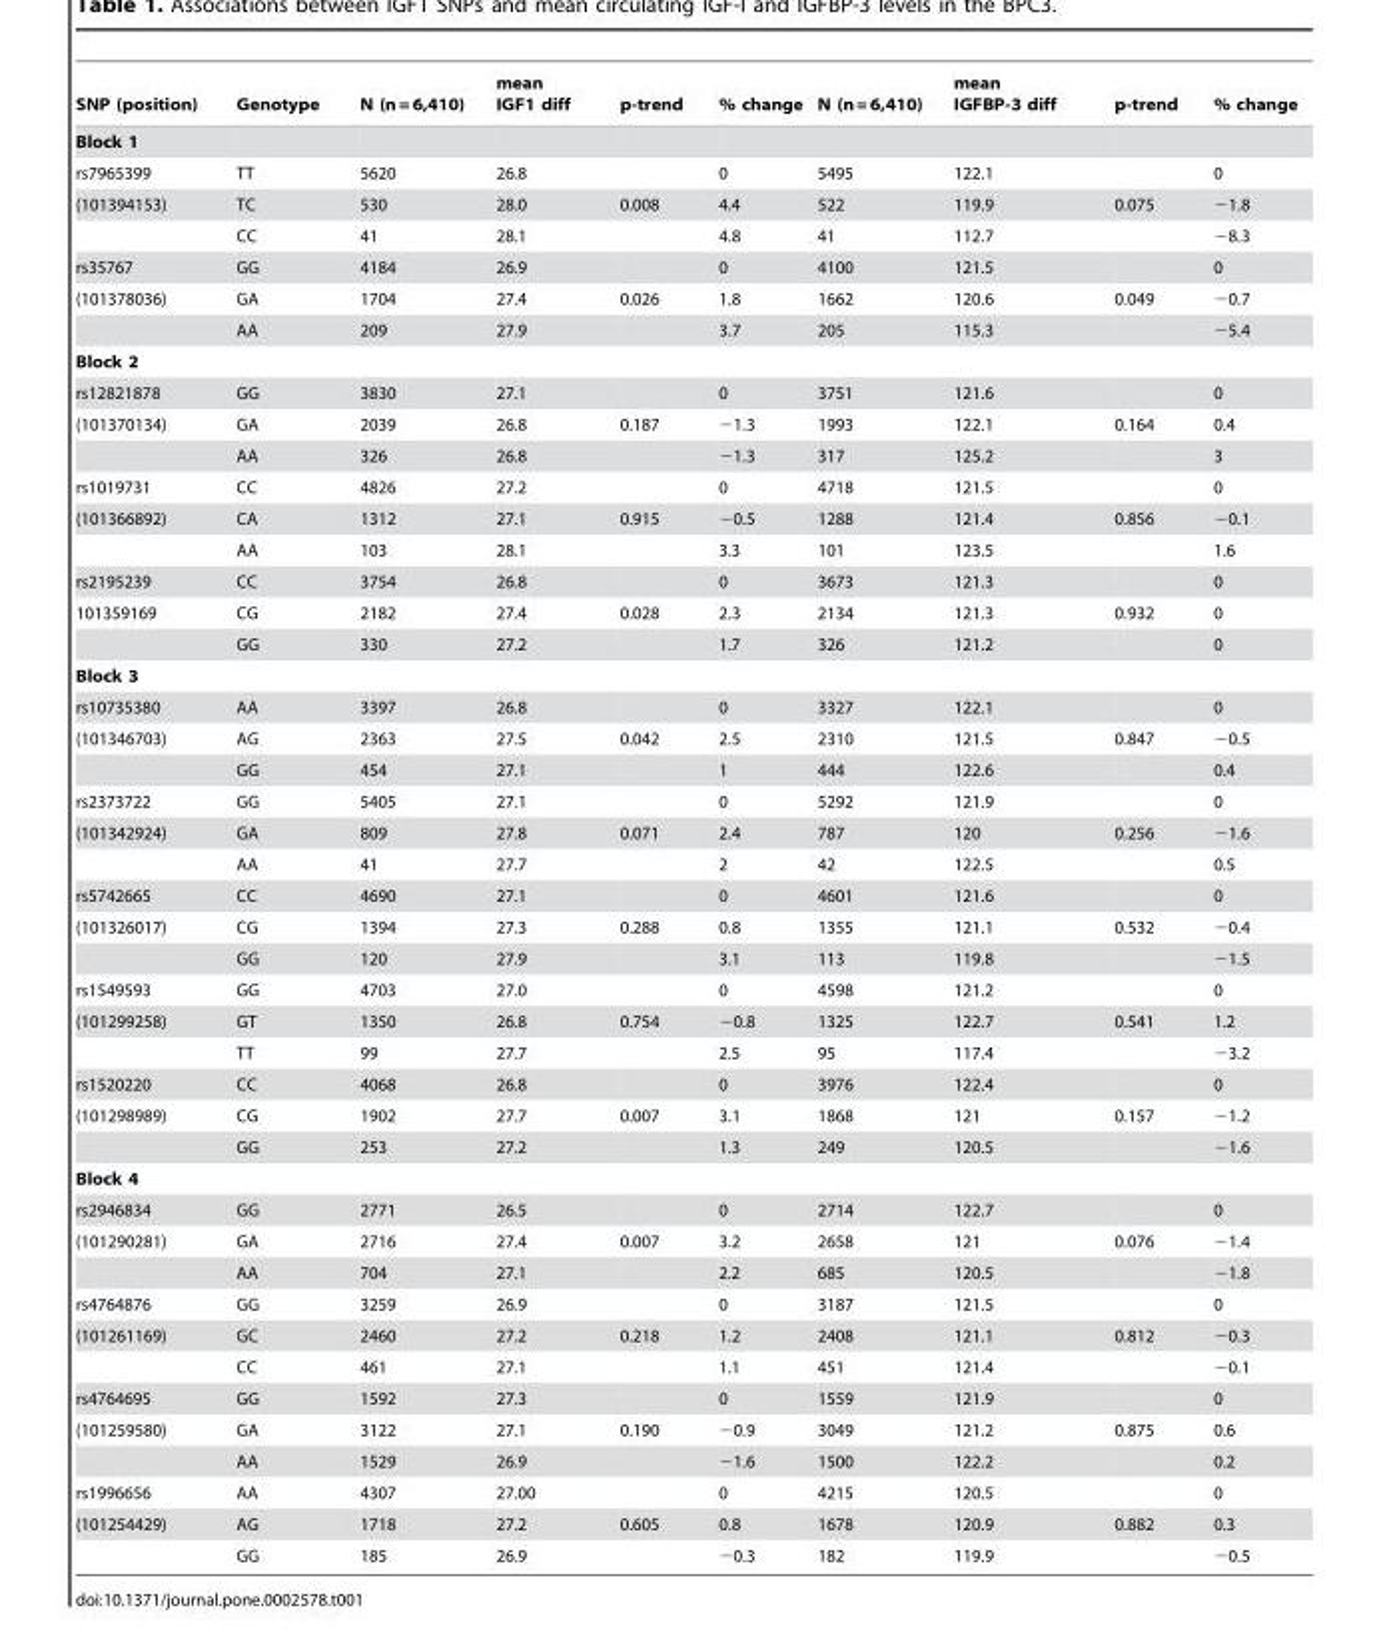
<table><thead><tr><td>SNP (position)</td><td>Genotype</td><td>N (n = 6,410)</td><td>mean IGF1 diff</td><td>p-trend</td><td>% change</td><td>N (n = 6,410)</td><td>mean IGFBP-3 diff</td><td>p-trend</td><td>% change</td></tr></thead><tbody><tr><td colspan="10">Block 1</td></tr><tr><td>rs7965399</td><td>TT</td><td>5620</td><td>26.8</td><td></td><td>0</td><td>5495</td><td>122.1</td><td></td><td>0</td></tr><tr><td rowspan="2">(101394153)</td><td>TC</td><td>530</td><td>28.0</td><td>0.008</td><td>4.4</td><td>522</td><td>119.9</td><td>0.075</td><td>−1.8</td></tr><tr><td>CC</td><td>41</td><td>28.1</td><td></td><td>4.8</td><td>41</td><td>112.7</td><td></td><td>−8.3</td></tr><tr><td>rs35767</td><td>GG</td><td>4184</td><td>26.9</td><td></td><td>0</td><td>4100</td><td>121.5</td><td></td><td>0</td></tr><tr><td rowspan="2">(101378036)</td><td>GA</td><td>1704</td><td>27.4</td><td>0.026</td><td>1.8</td><td>1662</td><td>120.6</td><td>0.049</td><td>−0.7</td></tr><tr><td>AA</td><td>209</td><td>27.9</td><td></td><td>3.7</td><td>205</td><td>115.3</td><td></td><td>−5.4</td></tr><tr><td colspan="10">Block 2</td></tr><tr><td>rs12821878</td><td>GG</td><td>3830</td><td>27.1</td><td></td><td>0</td><td>3751</td><td>121.6</td><td></td><td>0</td></tr><tr><td rowspan="2">(101370134)</td><td>GA</td><td>2039</td><td>26.8</td><td>0.187</td><td>−1.3</td><td>1993</td><td>122.1</td><td>0.164</td><td>0.4</td></tr><tr><td>AA</td><td>326</td><td>26.8</td><td></td><td>−1.3</td><td>317</td><td>125.2</td><td></td><td>3</td></tr><tr><td>rs1019731</td><td>CC</td><td>4826</td><td>27.2</td><td></td><td>0</td><td>4718</td><td>121.5</td><td></td><td>0</td></tr><tr><td rowspan="2">(101366892)</td><td>CA</td><td>1312</td><td>27.1</td><td>0.915</td><td>−0.5</td><td>1288</td><td>121.4</td><td>0.856</td><td>−0.1</td></tr><tr><td>AA</td><td>103</td><td>28.1</td><td></td><td>3.3</td><td>101</td><td>123.5</td><td></td><td>1.6</td></tr><tr><td>rs2195239</td><td>CC</td><td>3754</td><td>26.8</td><td></td><td>0</td><td>3673</td><td>121.3</td><td></td><td>0</td></tr><tr><td rowspan="2">101359169</td><td>CG</td><td>2182</td><td>27.4</td><td>0.028</td><td>2.3</td><td>2134</td><td>121.3</td><td>0.932</td><td>0</td></tr><tr><td>GG</td><td>330</td><td>27.2</td><td></td><td>1.7</td><td>326</td><td>121.2</td><td></td><td>0</td></tr><tr><td colspan="10">Block 3</td></tr><tr><td>rs10735380</td><td>AA</td><td>3397</td><td>26.8</td><td></td><td>0</td><td>3327</td><td>122.1</td><td></td><td>0</td></tr><tr><td rowspan="2">(101346703)</td><td>AG</td><td>2363</td><td>27.5</td><td>0.042</td><td>2.5</td><td>2310</td><td>121.5</td><td>0.847</td><td>−0.5</td></tr><tr><td>GG</td><td>454</td><td>27.1</td><td></td><td>1</td><td>444</td><td>122.6</td><td></td><td>0.4</td></tr><tr><td>rs2373722</td><td>GG</td><td>5405</td><td>27.1</td><td></td><td>0</td><td>5292</td><td>121.9</td><td></td><td>0</td></tr><tr><td rowspan="2">(101342924)</td><td>GA</td><td>809</td><td>27.8</td><td>0.071</td><td>2.4</td><td>787</td><td>120</td><td>0.256</td><td>−1.6</td></tr><tr><td>AA</td><td>41</td><td>27.7</td><td></td><td>2</td><td>42</td><td>122.5</td><td></td><td>0.5</td></tr><tr><td>rs5742665</td><td>CC</td><td>4690</td><td>27.1</td><td></td><td>0</td><td>4601</td><td>121.6</td><td></td><td>0</td></tr><tr><td rowspan="2">(101326017)</td><td>CG</td><td>1394</td><td>27.3</td><td>0.288</td><td>0.8</td><td>1355</td><td>121.1</td><td>0.532</td><td>−0.4</td></tr><tr><td>GG</td><td>120</td><td>27.9</td><td></td><td>3.1</td><td>113</td><td>119.8</td><td></td><td>−1.5</td></tr><tr><td>rs1549593</td><td>GG</td><td>4703</td><td>27.0</td><td></td><td>0</td><td>4598</td><td>121.2</td><td></td><td>0</td></tr><tr><td rowspan="2">(101299258)</td><td>GT</td><td>1350</td><td>26.8</td><td>0.754</td><td>−0.8</td><td>1325</td><td>122.7</td><td>0.541</td><td>1.2</td></tr><tr><td>TT</td><td>99</td><td>27.7</td><td></td><td>2.5</td><td>95</td><td>117.4</td><td></td><td>−3.2</td></tr><tr><td>rs1520220</td><td>CC</td><td>4068</td><td>26.8</td><td></td><td>0</td><td>3976</td><td>122.4</td><td></td><td>0</td></tr><tr><td rowspan="2">(101298989)</td><td>CG</td><td>1902</td><td>27.7</td><td>0.007</td><td>3.1</td><td>1868</td><td>121</td><td>0.157</td><td>−1.2</td></tr><tr><td>GG</td><td>253</td><td>27.2</td><td></td><td>1.3</td><td>249</td><td>120.5</td><td></td><td>−1.6</td></tr><tr><td colspan="10">Block 4</td></tr><tr><td>rs2946834</td><td>GG</td><td>2771</td><td>26.5</td><td></td><td>0</td><td>2714</td><td>122.7</td><td></td><td>0</td></tr><tr><td rowspan="2">(101290281)</td><td>GA</td><td>2716</td><td>27.4</td><td>0.007</td><td>3.2</td><td>2658</td><td>121</td><td>0.076</td><td>−1.4</td></tr><tr><td>AA</td><td>704</td><td>27.1</td><td></td><td>2.2</td><td>685</td><td>120.5</td><td></td><td>−1.8</td></tr><tr><td>rs4764876</td><td>GG</td><td>3259</td><td>26.9</td><td></td><td>0</td><td>3187</td><td>121.5</td><td></td><td>0</td></tr><tr><td rowspan="2">(101261169)</td><td>GC</td><td>2460</td><td>27.2</td><td>0.218</td><td>1.2</td><td>2408</td><td>121.1</td><td>0.812</td><td>−0.3</td></tr><tr><td>CC</td><td>461</td><td>27.1</td><td></td><td>1.1</td><td>451</td><td>121.4</td><td></td><td>−0.1</td></tr><tr><td>rs4764695</td><td>GG</td><td>1592</td><td>27.3</td><td></td><td>0</td><td>1559</td><td>121.9</td><td></td><td>0</td></tr><tr><td rowspan="2">(101259580)</td><td>GA</td><td>3122</td><td>27.1</td><td>0.190</td><td>−0.9</td><td>3049</td><td>121.2</td><td>0.875</td><td>0.6</td></tr><tr><td>AA</td><td>1529</td><td>26.9</td><td></td><td>−1.6</td><td>1500</td><td>122.2</td><td></td><td>0.2</td></tr><tr><td>rs1996656</td><td>AA</td><td>4307</td><td>27.00</td><td></td><td>0</td><td>4215</td><td>120.5</td><td></td><td>0</td></tr><tr><td rowspan="2">(101254429)</td><td>AG</td><td>1718</td><td>27.2</td><td>0.605</td><td>0.8</td><td>1678</td><td>120.9</td><td>0.882</td><td>0.3</td></tr><tr><td>GG</td><td>185</td><td>26.9</td><td></td><td>−0.3</td><td>182</td><td>119.9</td><td></td><td>−0.5</td></tr></tbody></table>